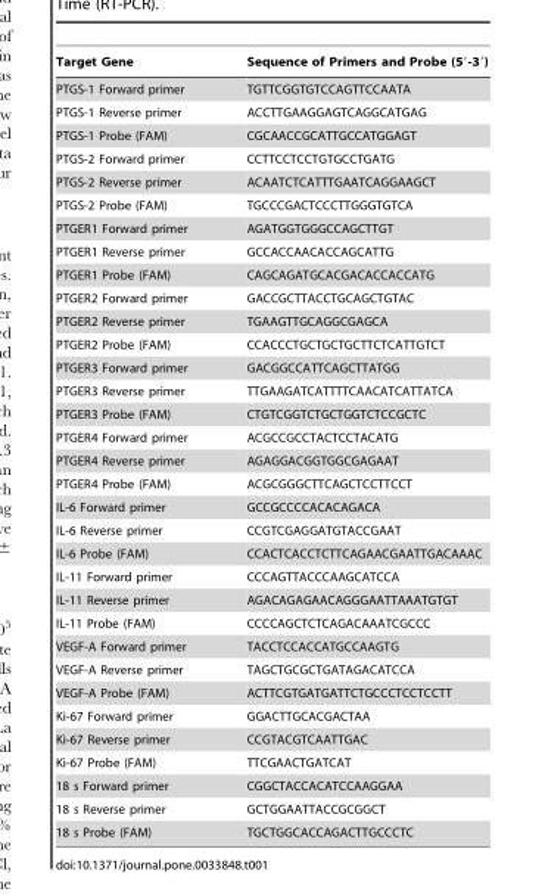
<table><thead><tr><td>Target Gene</td><td>Sequence of Primers and Probe (5′-3′)</td></tr></thead><tbody><tr><td>PTGS-1 Forward primer</td><td>TGTTCGGTGTCCAGTTCCAATA</td></tr><tr><td>PTGS-1 Reverse primer</td><td>ACCTTGAAGGAGTCAGGCATGAG</td></tr><tr><td>PTGS-1 Probe (FAM)</td><td>CGCAACCGCATTGCCATGGAGT</td></tr><tr><td>PTGS-2 Forward primer</td><td>CCTTCCTCCTGTGCCTGATG</td></tr><tr><td>PTGS-2 Reverse primer</td><td>ACAATCTCATTTGAATCAGGAAGCT</td></tr><tr><td>PTGS-2 Probe (FAM)</td><td>TGCCCGACTCCCTTGGGTGTCA</td></tr><tr><td>PTGER1 Forward primer</td><td>AGATGGTGGGCCAGCTTGT</td></tr><tr><td>PTGER1 Reverse primer</td><td>GCCACCAACACCAGCATTG</td></tr><tr><td>PTGER1 Probe (FAM)</td><td>CAGCAGATGCACGACACCACCATG</td></tr><tr><td>PTGER2 Forward primer</td><td>GACCGCTTACCTGCAGCTGTAC</td></tr><tr><td>PTGER2 Reverse primer</td><td>TGAAGTTGCAGGCGAGCA</td></tr><tr><td>PTGER2 Probe (FAM)</td><td>CCACCCTGCTGCTGCTTCTCATTGTCT</td></tr><tr><td>PTGER3 Forward primer</td><td>GACGGCCATTCAGCTTATGG</td></tr><tr><td>PTGER3 Reverse primer</td><td>TTGAAGATCATTTTCAACATCATTATCA</td></tr><tr><td>PTGER3 Probe (FAM)</td><td>CTGTCGGTCTGCTGGTCTCCGCTC</td></tr><tr><td>PTGER4 Forward primer</td><td>ACGCCGCCTACTCCTACATG</td></tr><tr><td>PTGER4 Reverse primer</td><td>AGAGGACGGTGGCGAGAAT</td></tr><tr><td>PTGER4 Probe (FAM)</td><td>ACGCGGGCTTCAGCTCCTTCCT</td></tr><tr><td>IL-6 Forward primer</td><td>GCCGCCCCACACAGACA</td></tr><tr><td>IL-6 Reverse primer</td><td>CCGTCGAGGATGTACCGAAT</td></tr><tr><td>IL-6 Probe (FAM)</td><td>CCACTCACCTCTTCAGAACGAATTGACAAAC</td></tr><tr><td>IL-11 Forward primer</td><td>CCCAGTTACCCAAGCATCCA</td></tr><tr><td>IL-11 Reverse primer</td><td>AGACAGAGAACAGGGAATTAAATGTGT</td></tr><tr><td>IL-11 Probe (FAM)</td><td>CCCCAGCTCTCAGACAAATCGCCC</td></tr><tr><td>VEGF-A Forward primer</td><td>TACCTCCACCATGCCAAGTG</td></tr><tr><td>VEGF-A Reverse primer</td><td>TAGCTGCGCTGATAGACATCCA</td></tr><tr><td>VEGF-A Probe (FAM)</td><td>ACTTCGTGATGATTCTGCCCTCCTCCTT</td></tr><tr><td>Ki-67 Forward primer</td><td>GGACTTGCACGACTAA</td></tr><tr><td>Ki-67 Reverse primer</td><td>CCGTACGTCAATTGAC</td></tr><tr><td>Ki-67 Probe (FAM)</td><td>TTCGAACTGATCAT</td></tr><tr><td>18 s Forward primer</td><td>CGGCTACCACATCCAAGGAA</td></tr><tr><td>18 s Reverse primer</td><td>GCTGGAATTACCGCGGCT</td></tr><tr><td>18 s Probe (FAM)</td><td>TGCTGGCACCAGACTTGCCCTC</td></tr></tbody></table>